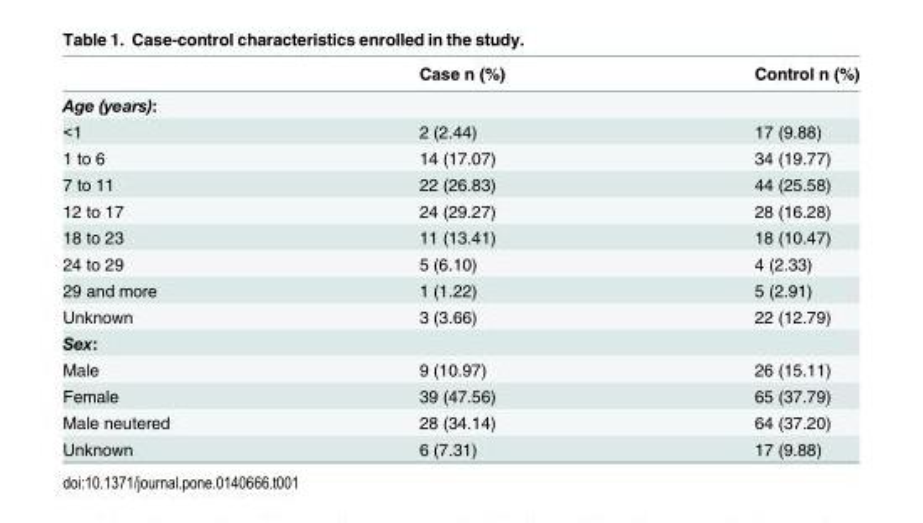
<table><thead><tr><td></td><td>Case n (%)</td><td>Control n (%)</td></tr></thead><tbody><tr><td colspan="3">Age (years):</td></tr><tr><td>&lt;1</td><td>2 (2.44)</td><td>17 (9.88)</td></tr><tr><td>1 to 6</td><td>14 (17.07)</td><td>34 (19.77)</td></tr><tr><td>7 to 11</td><td>22 (26.83)</td><td>44 (25.58)</td></tr><tr><td>12 to 17</td><td>24 (29.27)</td><td>28 (16.28)</td></tr><tr><td>18 to 23</td><td>11 (13.41)</td><td>18 (10.47)</td></tr><tr><td>24 to 29</td><td>5 (6.10)</td><td>4 (2.33)</td></tr><tr><td>29 and more</td><td>1 (1.22)</td><td>5 (2.91)</td></tr><tr><td>Unknown</td><td>3 (3.66)</td><td>22 (12.79)</td></tr><tr><td colspan="3">Sex:</td></tr><tr><td>Male</td><td>9 (10.97)</td><td>26 (15.11)</td></tr><tr><td>Female</td><td>39 (47.56)</td><td>65 (37.79)</td></tr><tr><td>Male neutered</td><td>28 (34.14)</td><td>64 (37.20)</td></tr><tr><td>Unknown</td><td>6 (7.31)</td><td>17 (9.88)</td></tr></tbody></table>